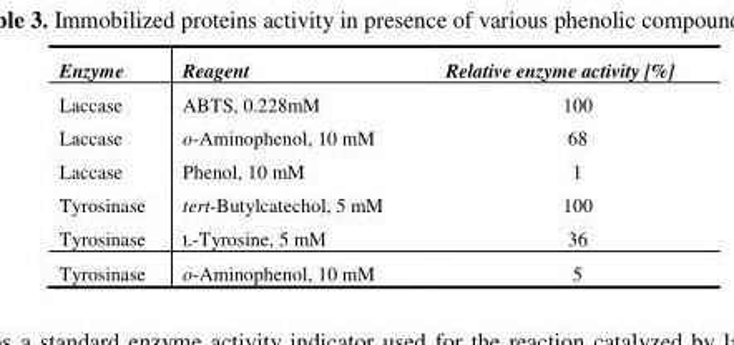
<table><thead><tr><td>Enzyme</td><td>Reagent</td><td>Relative enzyme activity [%]</td></tr></thead><tbody><tr><td>Laccase</td><td>ABTS, 0.228mM</td><td>100</td></tr><tr><td>Laccase</td><td>o-Aminophenol, 10 mM</td><td>68</td></tr><tr><td>Laccase</td><td>Phenol, 10 mM</td><td>1</td></tr><tr><td>Tyrosinase</td><td>tert-Butylcatechol, 5 mM</td><td>100</td></tr><tr><td>Tyrosinase</td><td>L-Tyrosine, 5 mM</td><td>36</td></tr><tr><td>Tyrosinase</td><td>o-Aminophenol, 10 mM</td><td>5</td></tr></tbody></table>